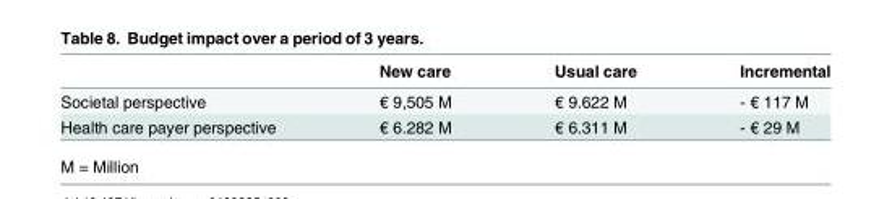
<table><thead><tr><td></td><td>New care</td><td>Usual care</td><td>Incremental</td></tr></thead><tbody><tr><td>Societal perspective</td><td>€ 9,505 M</td><td>€ 9.622 M</td><td>- € 117 M</td></tr><tr><td>Health care payer perspective</td><td>€ 6.282 M</td><td>€ 6.311 M</td><td>- € 29 M</td></tr></tbody></table>